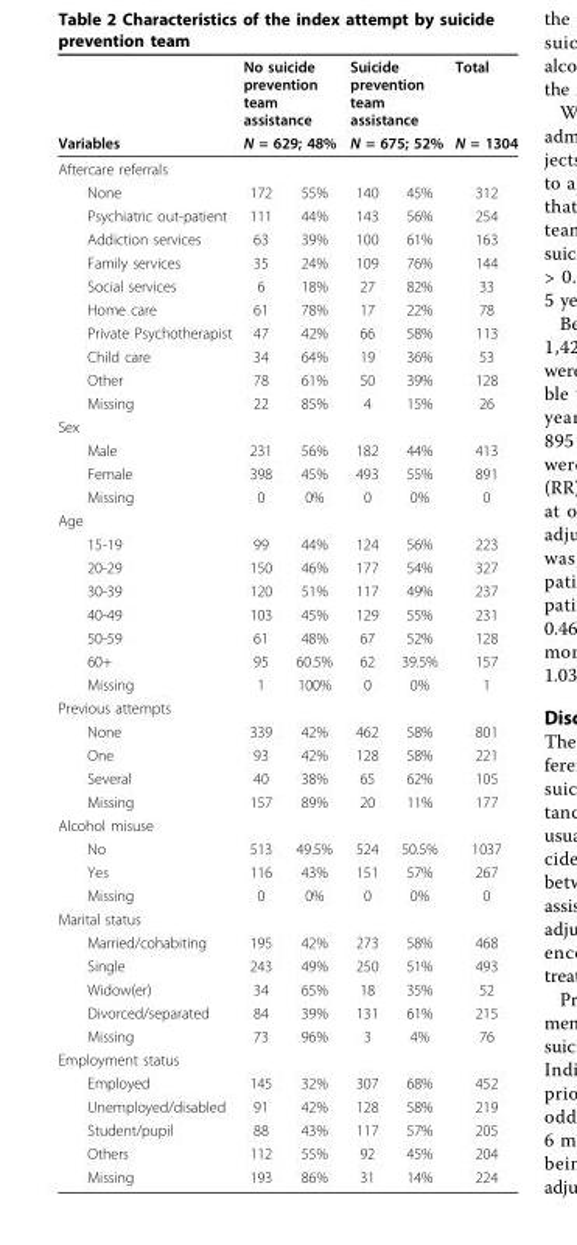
<table><thead><tr><td rowspan="3">Variables Aftercare referrals</td><td rowspan="2" colspan="2">No suicide prevention team assistance N = 629; 48%</td><td rowspan="2" colspan="2">Suicide prevention team assistance N = 675; 52%</td><td rowspan="3">Total N = 1304</td></tr><tr></tr><tr><td></td><td></td><td></td><td></td></tr></thead><tbody><tr><td>None</td><td>172</td><td>55%</td><td>140</td><td>45%</td><td>312</td></tr><tr><td>Psychiatric out-patient</td><td>111</td><td>44%</td><td>143</td><td>56%</td><td>254</td></tr><tr><td>Addiction services</td><td>63</td><td>39%</td><td>100</td><td>61%</td><td>163</td></tr><tr><td>Family services</td><td>35</td><td>24%</td><td>109</td><td>76%</td><td>144</td></tr><tr><td>Social services</td><td>6</td><td>18%</td><td>27</td><td>82%</td><td>33</td></tr><tr><td>Home care</td><td>61</td><td>78%</td><td>17</td><td>22%</td><td>78</td></tr><tr><td>Private Psychotherapist</td><td>47</td><td>42%</td><td>66</td><td>58%</td><td>113</td></tr><tr><td>Child care</td><td>34</td><td>64%</td><td>19</td><td>36%</td><td>53</td></tr><tr><td>Other</td><td>78</td><td>61%</td><td>50</td><td>39%</td><td>128</td></tr><tr><td>Missing</td><td>22</td><td>85%</td><td>4</td><td>15%</td><td>26</td></tr><tr><td colspan="6">Sex</td></tr><tr><td>Male</td><td>231</td><td>56%</td><td>182</td><td>44%</td><td>413</td></tr><tr><td>Female</td><td>398</td><td>45%</td><td>493</td><td>55%</td><td>891</td></tr><tr><td>Missing</td><td>0</td><td>0%</td><td>0</td><td>0%</td><td>0</td></tr><tr><td colspan="6">Age</td></tr><tr><td>15-19</td><td>99</td><td>44%</td><td>124</td><td>56%</td><td>223</td></tr><tr><td>20-29</td><td>150</td><td>46%</td><td>177</td><td>54%</td><td>327</td></tr><tr><td>30-39</td><td>120</td><td>51%</td><td>117</td><td>49%</td><td>237</td></tr><tr><td>40-49</td><td>103</td><td>45%</td><td>129</td><td>55%</td><td>231</td></tr><tr><td>50-59</td><td>61</td><td>48%</td><td>67</td><td>52%</td><td>128</td></tr><tr><td>60+</td><td>95</td><td>60.5%</td><td>62</td><td>39.5%</td><td>157</td></tr><tr><td>Missing</td><td>1</td><td>100%</td><td>0</td><td>0%</td><td>1</td></tr><tr><td colspan="6">Previous attempts</td></tr><tr><td>None</td><td>339</td><td>42%</td><td>462</td><td>58%</td><td>801</td></tr><tr><td>One</td><td>93</td><td>42%</td><td>128</td><td>58%</td><td>221</td></tr><tr><td>Several</td><td>40</td><td>38%</td><td>65</td><td>62%</td><td>105</td></tr><tr><td>Missing</td><td>157</td><td>89%</td><td>20</td><td>11%</td><td>177</td></tr><tr><td colspan="6">Alcohol misuse</td></tr><tr><td>No</td><td>513</td><td>49.5%</td><td>524</td><td>50.5%</td><td>1037</td></tr><tr><td>Yes</td><td>116</td><td>43%</td><td>151</td><td>57%</td><td>267</td></tr><tr><td>Missing</td><td>0</td><td>0%</td><td>0</td><td>0%</td><td>0</td></tr><tr><td colspan="6">Marital status</td></tr><tr><td>Married/cohabiting</td><td>195</td><td>42%</td><td>273</td><td>58%</td><td>468</td></tr><tr><td>Single</td><td>243</td><td>49%</td><td>250</td><td>51%</td><td>493</td></tr><tr><td>Widow(er)</td><td>34</td><td>65%</td><td>18</td><td>35%</td><td>52</td></tr><tr><td>Divorced/separated</td><td>84</td><td>39%</td><td>131</td><td>61%</td><td>215</td></tr><tr><td>Missing</td><td>73</td><td>96%</td><td>3</td><td>4%</td><td>76</td></tr><tr><td colspan="6">Employment status</td></tr><tr><td>Employed</td><td>145</td><td>32%</td><td>307</td><td>68%</td><td>452</td></tr><tr><td>Unemployed/disabled</td><td>91</td><td>42%</td><td>128</td><td>58%</td><td>219</td></tr><tr><td>Student/pupil</td><td>88</td><td>43%</td><td>117</td><td>57%</td><td>205</td></tr><tr><td>Others</td><td>112</td><td>55%</td><td>92</td><td>45%</td><td>204</td></tr><tr><td>Missing</td><td>193</td><td>86%</td><td>31</td><td>14%</td><td>224</td></tr></tbody></table>